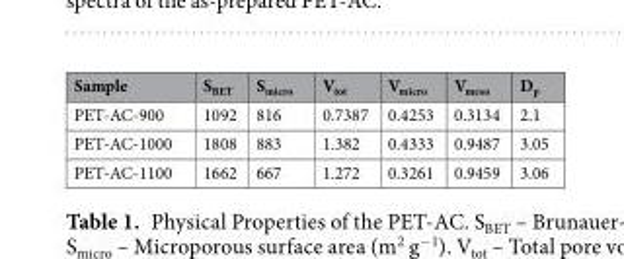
<table><thead><tr><td>Sample</td><td>S<sub>BET</sub></td><td>S<sub>micro</sub></td><td>V<sub>tot</sub></td><td>V<sub>micro</sub></td><td>V<sub>meso</sub></td><td>D<sub>p</sub></td></tr></thead><tbody><tr><td>PET-AC-900</td><td>1092</td><td>816</td><td>0.7387</td><td>0.4253</td><td>0.3134</td><td>2.1</td></tr><tr><td>PET-AC-1000</td><td>1808</td><td>883</td><td>1.382</td><td>0.4333</td><td>0.9487</td><td>3.05</td></tr><tr><td>PET-AC-1100</td><td>1662</td><td>667</td><td>1.272</td><td>0.3261</td><td>0.9459</td><td>3.06</td></tr></tbody></table>